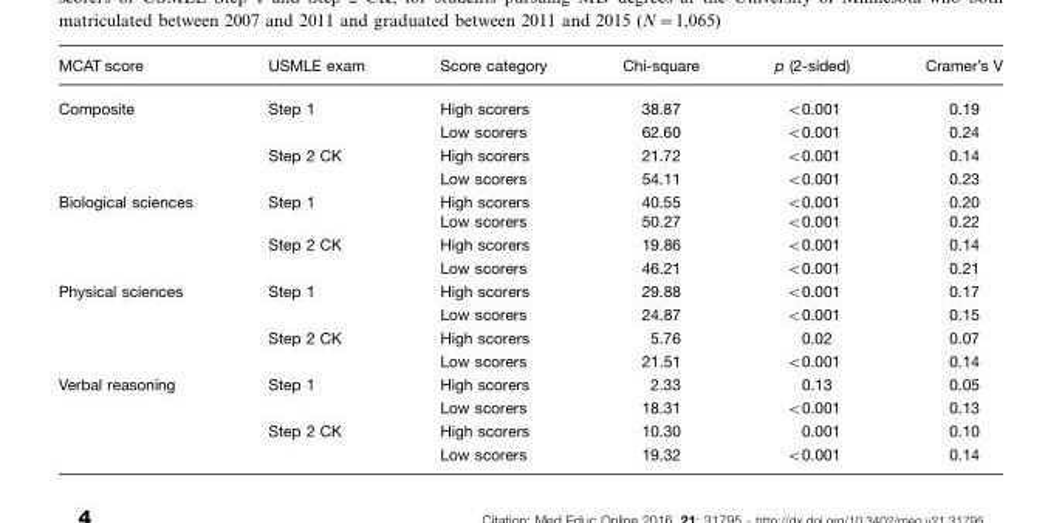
<table><thead><tr><td>MCAT score</td><td>USMLE exam</td><td>Score category</td><td>Chi-square</td><td>p (2-sided)</td><td>Cramer’s V</td></tr></thead><tbody><tr><td rowspan="4">Composite</td><td>Step 1</td><td>High scorers</td><td>38.87</td><td>&lt;0.001</td><td>0.19</td></tr><tr><td></td><td>Low scorers</td><td>62.60</td><td>&lt;0.001</td><td>0.24</td></tr><tr><td>Step 2 CK</td><td>High scorers</td><td>21.72</td><td>&lt;0.001</td><td>0.14</td></tr><tr><td></td><td>Low scorers</td><td>54.11</td><td>&lt;0.001</td><td>0.23</td></tr><tr><td rowspan="4">Biological sciences</td><td>Step 1</td><td>High scorers</td><td>40.55</td><td>&lt;0.001</td><td>0.20</td></tr><tr><td></td><td>Low scorers</td><td>50.27</td><td>&lt;0.001</td><td>0.22</td></tr><tr><td>Step 2 CK</td><td>High scorers</td><td>19.86</td><td>&lt;0.001</td><td>0.14</td></tr><tr><td></td><td>Low scorers</td><td>46.21</td><td>&lt;0.001</td><td>0.21</td></tr><tr><td rowspan="4">Physical sciences</td><td>Step 1</td><td>High scorers</td><td>29.88</td><td>&lt;0.001</td><td>0.17</td></tr><tr><td></td><td>Low scorers</td><td>24.87</td><td>&lt;0.001</td><td>0.15</td></tr><tr><td>Step 2 CK</td><td>High scorers</td><td>5.76</td><td>0.02</td><td>0.07</td></tr><tr><td></td><td>Low scorers</td><td>21.51</td><td>&lt;0.001</td><td>0.14</td></tr><tr><td rowspan="4">Verbal reasoning</td><td>Step 1</td><td>High scorers</td><td>2.33</td><td>0.13</td><td>0.05</td></tr><tr><td></td><td>Low scorers</td><td>18.31</td><td>&lt;0.001</td><td>0.13</td></tr><tr><td>Step 2 CK</td><td>High scorers</td><td>10.30</td><td>0.001</td><td>0.10</td></tr><tr><td></td><td>Low scorers</td><td>19.32</td><td>&lt;0.001</td><td>0.14</td></tr></tbody></table>